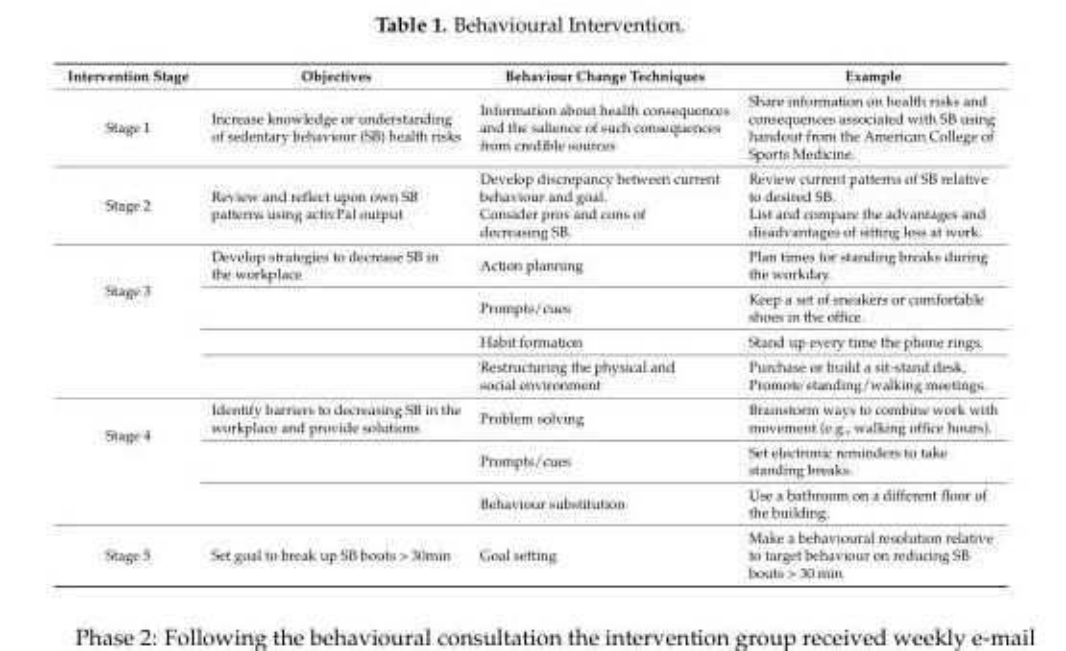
<table><thead><tr><td>Intervention Stage</td><td>Objectives</td><td>Behaviour Change Techniques</td><td>Example</td></tr></thead><tbody><tr><td>Stage 1</td><td>Increase knowledge or understanding of sedentary behaviour (SB) health risks</td><td>Information about health consequences and the salience of such consequences from credible sources</td><td>Share information on health risks and consequences associated with SB using handout from the American College of Sports Medicine.</td></tr><tr><td>Stage 2</td><td>Review and reflect upon own SB patterns using activPal output</td><td>Develop discrepancy between current behaviour and goal. Consider pros and cons of decreasing SB.</td><td>Review current patterns of SB relative to desired SB. List and compare the advantages and disadvantages of sitting less at work.</td></tr><tr><td rowspan="4">Stage 3</td><td>Develop strategies to decrease SB in the workplace</td><td>Action planning</td><td>Plan times for standing breaks during the workday.</td></tr><tr><td></td><td>Prompts/cues</td><td>Keep a set of sneakers or comfortable shoes in the office.</td></tr><tr><td></td><td>Habit formation</td><td>Stand up every time the phone rings.</td></tr><tr><td></td><td>Restructuring the physical and social environment</td><td>Purchase or build a sit-stand desk. Promote standing/walking meetings.</td></tr><tr><td rowspan="3">Stage 4</td><td>Identify barriers to decreasing SB in the workplace and provide solutions</td><td>Problem solving</td><td>Brainstorm ways to combine work with movement (e.g., walking office hours).</td></tr><tr><td></td><td>Prompts/cues</td><td>Set electronic reminders to take standing breaks.</td></tr><tr><td></td><td>Behaviour substitution</td><td>Use a bathroom on a different floor of the building.</td></tr><tr><td>Stage 5</td><td>Set goal to break up SB bouts &gt; 30min</td><td>Goal setting</td><td>Make a behavioural resolution relative to target behaviour on reducing SB bouts &gt; 30 min</td></tr></tbody></table>